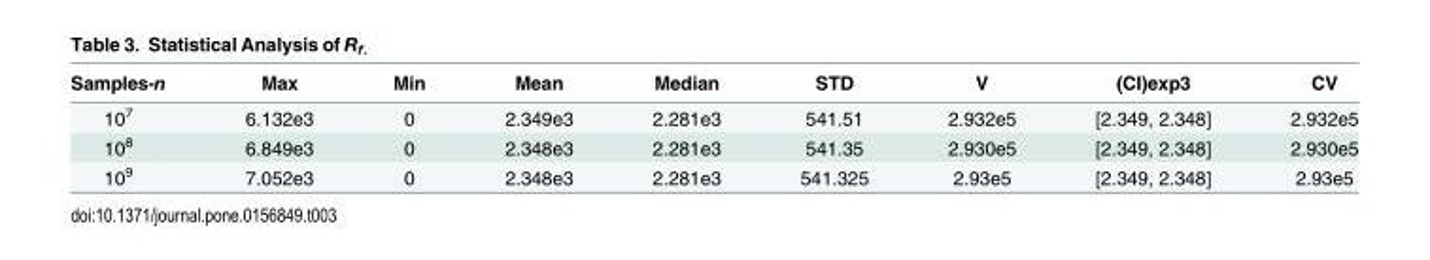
<table><thead><tr><td>Samples-n</td><td>Max</td><td>Min</td><td>Mean</td><td>Median</td><td>STD</td><td>V</td><td>(CI)exp3</td><td>CV</td></tr></thead><tbody><tr><td>10<sup>7</sup></td><td>6.132e3</td><td>0</td><td>2.349e3</td><td>2.281e3</td><td>541.51</td><td>2.932e5</td><td>[2.349, 2.348]</td><td>2.932e5</td></tr><tr><td>10<sup>8</sup></td><td>6.849e3</td><td>0</td><td>2.348e3</td><td>2.281e3</td><td>541.35</td><td>2.930e5</td><td>[2.349, 2.348]</td><td>2.930e5</td></tr><tr><td>10<sup>9</sup></td><td>7.052e3</td><td>0</td><td>2.348e3</td><td>2.281e3</td><td>541.325</td><td>2.93e5</td><td>[2.349, 2.348]</td><td>2.93e5</td></tr></tbody></table>